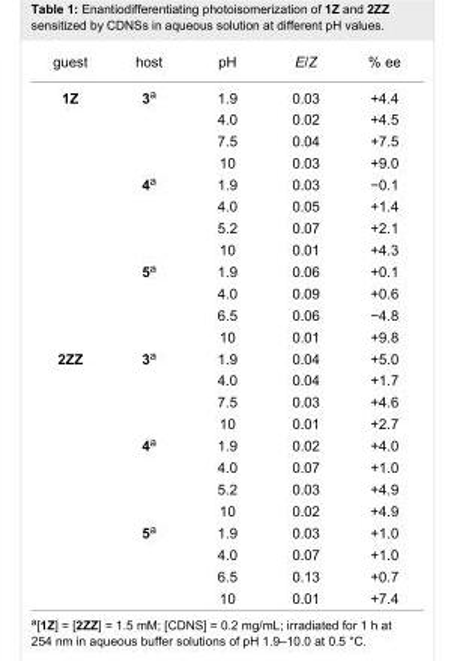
<table><tbody><tr><td>guest</td><td>host</td><td>pH</td><td>E/Z</td><td>% ee</td></tr><tr><td rowspan="12">1Z</td><td>3<sup>a</sup></td><td>1.9</td><td>0.03</td><td>+4.4</td></tr><tr><td></td><td>4.0</td><td>0.02</td><td>+4.5</td></tr><tr><td></td><td>7.5</td><td>0.04</td><td>+7.5</td></tr><tr><td></td><td>10</td><td>0.03</td><td>+9.0</td></tr><tr><td>4<sup>a</sup></td><td>1.9</td><td>0.03</td><td>−0.1</td></tr><tr><td></td><td>4.0</td><td>0.05</td><td>+1.4</td></tr><tr><td></td><td>5.2</td><td>0.07</td><td>+2.1</td></tr><tr><td></td><td>10</td><td>0.01</td><td>+4.3</td></tr><tr><td>5<sup>a</sup></td><td>1.9</td><td>0.06</td><td>+0.1</td></tr><tr><td></td><td>4.0</td><td>0.09</td><td>+0.6</td></tr><tr><td></td><td>6.5</td><td>0.06</td><td>−4.8</td></tr><tr><td></td><td>10</td><td>0.01</td><td>+9.8</td></tr><tr><td rowspan="12">2ZZ</td><td>3<sup>a</sup></td><td>1.9</td><td>0.04</td><td>+5.0</td></tr><tr><td></td><td>4.0</td><td>0.04</td><td>+1.7</td></tr><tr><td></td><td>7.5</td><td>0.03</td><td>+4.6</td></tr><tr><td></td><td>10</td><td>0.01</td><td>+2.7</td></tr><tr><td>4<sup>a</sup></td><td>1.9</td><td>0.02</td><td>+4.0</td></tr><tr><td></td><td>4.0</td><td>0.07</td><td>+1.0</td></tr><tr><td></td><td>5.2</td><td>0.03</td><td>+4.9</td></tr><tr><td></td><td>10</td><td>0.02</td><td>+4.9</td></tr><tr><td>5<sup>a</sup></td><td>1.9</td><td>0.03</td><td>+1.0</td></tr><tr><td></td><td>4.0</td><td>0.07</td><td>+1.0</td></tr><tr><td></td><td>6.5</td><td>0.13</td><td>+0.7</td></tr><tr><td></td><td>10</td><td>0.01</td><td>+7.4</td></tr></tbody></table>